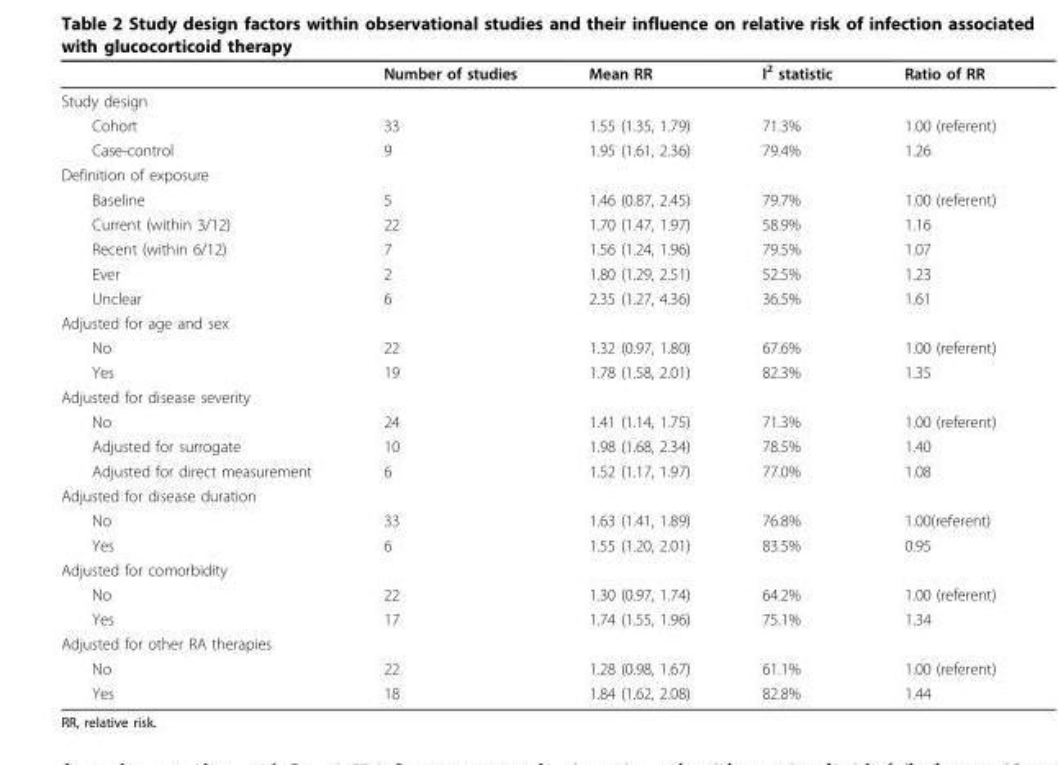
<table><thead><tr><td></td><td>Number of studies</td><td>Mean RR</td><td>I<sup>2</sup> statistic</td><td>Ratio of RR</td></tr></thead><tbody><tr><td colspan="5">Study design</td></tr><tr><td>Cohort</td><td>33</td><td>1.55 (1.35, 1.79)</td><td>71.3%</td><td>1.00 (referent)</td></tr><tr><td>Case-control</td><td>9</td><td>1.95 (1.61, 2.36)</td><td>79.4%</td><td>1.26</td></tr><tr><td colspan="5">Definition of exposure</td></tr><tr><td>Baseline</td><td>5</td><td>1.46 (0.87, 2.45)</td><td>79.7%</td><td>1.00 (referent)</td></tr><tr><td>Current (within 3/12)</td><td>22</td><td>1.70 (1.47, 1.97)</td><td>58.9%</td><td>1.16</td></tr><tr><td>Recent (within 6/12)</td><td>7</td><td>1.56 (1.24, 1.96)</td><td>79.5%</td><td>1.07</td></tr><tr><td>Ever</td><td>2</td><td>1.80 (1.29, 2.51)</td><td>52.5%</td><td>1.23</td></tr><tr><td>Unclear</td><td>6</td><td>2.35 (1.27, 4.36)</td><td>36.5%</td><td>1.61</td></tr><tr><td colspan="5">Adjusted for age and sex</td></tr><tr><td>No</td><td>22</td><td>1.32 (0.97, 1.80)</td><td>67.6%</td><td>1.00 (referent)</td></tr><tr><td>Yes</td><td>19</td><td>1.78 (1.58, 2.01)</td><td>82.3%</td><td>1.35</td></tr><tr><td colspan="5">Adjusted for disease severity</td></tr><tr><td>No</td><td>24</td><td>1.41 (1.14, 1.75)</td><td>71.3%</td><td>1.00 (referent)</td></tr><tr><td>Adjusted for surrogate</td><td>10</td><td>1.98 (1.68, 2.34)</td><td>78.5%</td><td>1.40</td></tr><tr><td>Adjusted for direct measurement</td><td>6</td><td>1.52 (1.17, 1.97)</td><td>77.0%</td><td>1.08</td></tr><tr><td colspan="5">Adjusted for disease duration</td></tr><tr><td>No</td><td>33</td><td>1.63 (1.41, 1.89)</td><td>76.8%</td><td>1.00(referent)</td></tr><tr><td>Yes</td><td>6</td><td>1.55 (1.20, 2.01)</td><td>83.5%</td><td>0.95</td></tr><tr><td colspan="5">Adjusted for comorbidity</td></tr><tr><td>No</td><td>22</td><td>1.30 (0.97, 1.74)</td><td>64.2%</td><td>1.00 (referent)</td></tr><tr><td>Yes</td><td>17</td><td>1.74 (1.55, 1.96)</td><td>75.1%</td><td>1.34</td></tr><tr><td colspan="5">Adjusted for other RA therapies</td></tr><tr><td>No</td><td>22</td><td>1.28 (0.98, 1.67)</td><td>61.1%</td><td>1.00 (referent)</td></tr><tr><td>Yes</td><td>18</td><td>1.84 (1.62, 2.08)</td><td>82.8%</td><td>1.44</td></tr></tbody></table>